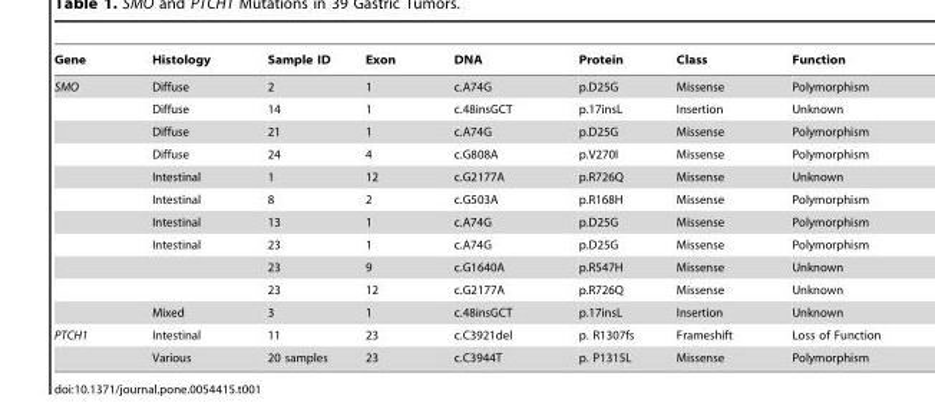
<table><thead><tr><td>Gene</td><td>Histology</td><td>Sample ID</td><td>Exon</td><td>DNA</td><td>Protein</td><td>Class</td><td>Function</td></tr></thead><tbody><tr><td rowspan="11">SMO</td><td>Diffuse</td><td>2</td><td>1</td><td>c.A74G</td><td>p.D25G</td><td>Missense</td><td>Polymorphism</td></tr><tr><td>Diffuse</td><td>14</td><td>1</td><td>c.48insGCT</td><td>p.17insL</td><td>Insertion</td><td>Unknown</td></tr><tr><td>Diffuse</td><td>21</td><td>1</td><td>c.A74G</td><td>p.D25G</td><td>Missense</td><td>Polymorphism</td></tr><tr><td>Diffuse</td><td>24</td><td>4</td><td>c.G808A</td><td>p.V270I</td><td>Missense</td><td>Polymorphism</td></tr><tr><td>Intestinal</td><td>1</td><td>12</td><td>c.G2177A</td><td>p.R726Q</td><td>Missense</td><td>Unknown</td></tr><tr><td>Intestinal</td><td>8</td><td>2</td><td>c.G503A</td><td>p.R168H</td><td>Missense</td><td>Polymorphism</td></tr><tr><td>Intestinal</td><td>13</td><td>1</td><td>c.A74G</td><td>p.D25G</td><td>Missense</td><td>Polymorphism</td></tr><tr><td>Intestinal</td><td>23</td><td>1</td><td>c.A74G</td><td>p.D25G</td><td>Missense</td><td>Polymorphism</td></tr><tr><td></td><td>23</td><td>9</td><td>c.G1640A</td><td>p.R547H</td><td>Missense</td><td>Unknown</td></tr><tr><td></td><td>23</td><td>12</td><td>c.G2177A</td><td>p.R726Q</td><td>Missense</td><td>Unknown</td></tr><tr><td>Mixed</td><td>3</td><td>1</td><td>c.48insGCT</td><td>p.17insL</td><td>Insertion</td><td>Unknown</td></tr><tr><td rowspan="2">PTCH1</td><td>Intestinal</td><td>11</td><td>23</td><td>c.C3921del</td><td>p. R1307fs</td><td>Frameshift</td><td>Loss of Function</td></tr><tr><td>Various</td><td>20 samples</td><td>23</td><td>c.C3944T</td><td>p. P1315L</td><td>Missense</td><td>Polymorphism</td></tr></tbody></table>